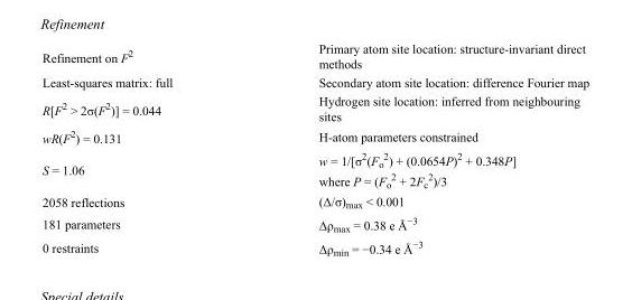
<table><tbody><tr><td>Refinement on F<sup>2</sup></td><td>Primary atom site location: structure-invariant direct methods</td></tr><tr><td>Least-squares matrix: full</td><td>Secondary atom site location: difference Fourier map</td></tr><tr><td>R[F<sup>2</sup> &gt; 2σ(F<sup>2</sup>)] = 0.044</td><td>Hydrogen site location: inferred from neighbouring sites</td></tr><tr><td>wR(F<sup>2</sup>) = 0.131</td><td>H-atom parameters constrained</td></tr><tr><td>S = 1.06</td><td>w = 1/[σ<sup>2</sup>(F<sub>o</sub> <sup>2</sup>) + (0.0654P)<sup>2</sup> + 0.348P] where P = (F<sub>o</sub> <sup>2</sup> + 2F<sub>c</sub> <sup>2</sup>)/3</td></tr><tr><td>2058 reflections</td><td>(Δ/σ)<sub>max</sub> &lt; 0.001</td></tr><tr><td>181 parameters</td><td>Δρ<sub>max</sub> = 0.38 e Å<sup>−3</sup></td></tr><tr><td>0 restraints</td><td>Δρ<sub>min</sub> = −0.34 e Å<sup>−3</sup></td></tr></tbody></table>